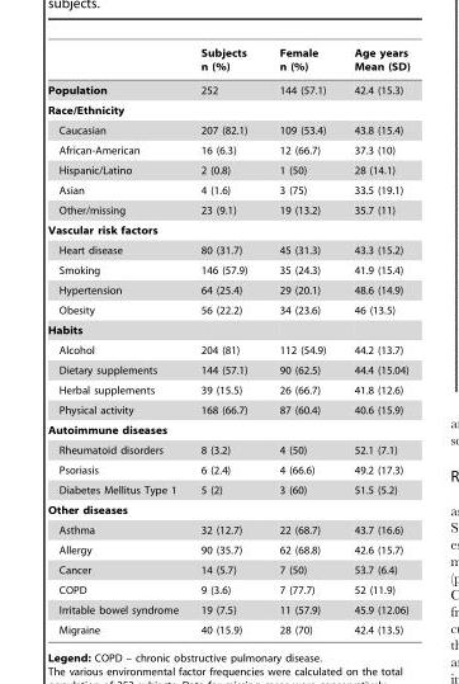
<table><thead><tr><td></td><td>Subjects n (%)</td><td>Female n (%)</td><td>Age years Mean (SD)</td></tr></thead><tbody><tr><td>Population</td><td>252</td><td>144 (57.1)</td><td>42.4 (15.3)</td></tr><tr><td colspan="4">Race/Ethnicity</td></tr><tr><td>Caucasian</td><td>207 (82.1)</td><td>109 (53.4)</td><td>43.8 (15.4)</td></tr><tr><td>African-American</td><td>16 (6.3)</td><td>12 (66.7)</td><td>37.3 (10)</td></tr><tr><td>Hispanic/Latino</td><td>2 (0.8)</td><td>1 (50)</td><td>28 (14.1)</td></tr><tr><td>Asian</td><td>4 (1.6)</td><td>3 (75)</td><td>33.5 (19.1)</td></tr><tr><td>Other/missing</td><td>23 (9.1)</td><td>19 (13.2)</td><td>35.7 (11)</td></tr><tr><td colspan="4">Vascular risk factors</td></tr><tr><td>Heart disease</td><td>80 (31.7)</td><td>45 (31.3)</td><td>43.3 (15.2)</td></tr><tr><td>Smoking</td><td>146 (57.9)</td><td>35 (24.3)</td><td>41.9 (15.4)</td></tr><tr><td>Hypertension</td><td>64 (25.4)</td><td>29 (20.1)</td><td>48.6 (14.9)</td></tr><tr><td>Obesity</td><td>56 (22.2)</td><td>34 (23.6)</td><td>46 (13.5)</td></tr><tr><td colspan="4">Habits</td></tr><tr><td>Alcohol</td><td>204 (81)</td><td>112 (54.9)</td><td>44.2 (13.7)</td></tr><tr><td>Dietary supplements</td><td>144 (57.1)</td><td>90 (62.5)</td><td>44.4 (15.04)</td></tr><tr><td>Herbal supplements</td><td>39 (15.5)</td><td>26 (66.7)</td><td>41.8 (12.6)</td></tr><tr><td>Physical activity</td><td>168 (66.7)</td><td>87 (60.4)</td><td>40.6 (15.9)</td></tr><tr><td colspan="4">Autoimmune diseases</td></tr><tr><td>Rheumatoid disorders</td><td>8 (3.2)</td><td>4 (50)</td><td>52.1 (7.1)</td></tr><tr><td>Psoriasis</td><td>6 (2.4)</td><td>4 (66.6)</td><td>49.2 (17.3)</td></tr><tr><td>Diabetes Mellitus Type 1</td><td>5 (2)</td><td>3 (60)</td><td>51.5 (5.2)</td></tr><tr><td colspan="4">Other diseases</td></tr><tr><td>Asthma</td><td>32 (12.7)</td><td>22 (68.7)</td><td>43.7 (16.6)</td></tr><tr><td>Allergy</td><td>90 (35.7)</td><td>62 (68.8)</td><td>42.6 (15.7)</td></tr><tr><td>Cancer</td><td>14 (5.7)</td><td>7 (50)</td><td>53.7 (6.4)</td></tr><tr><td>COPD</td><td>9 (3.6)</td><td>7 (77.7)</td><td>52 (11.9)</td></tr><tr><td>Irritable bowel syndrome</td><td>19 (7.5)</td><td>11 (57.9)</td><td>45.9 (12.06)</td></tr><tr><td>Migraine</td><td>40 (15.9)</td><td>28 (70)</td><td>42.4 (13.5)</td></tr></tbody></table>